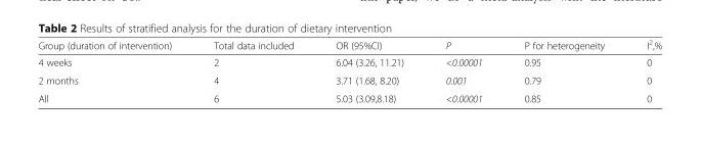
<table><thead><tr><td>Group (duration of intervention)</td><td>Total data included</td><td>OR (95%CI)</td><td>P</td><td>P for heterogeneity</td><td>I<sup>2</sup>,%</td></tr></thead><tbody><tr><td>4 weeks</td><td>2</td><td>6.04 (3.26, 11.21)</td><td>&lt;0.00001</td><td>0.95</td><td>0</td></tr><tr><td>2 months</td><td>4</td><td>3.71 (1.68, 8.20)</td><td>0.001</td><td>0.79</td><td>0</td></tr><tr><td>All</td><td>6</td><td>5.03 (3.09,8.18)</td><td>&lt;0.00001</td><td>0.85</td><td>0</td></tr></tbody></table>